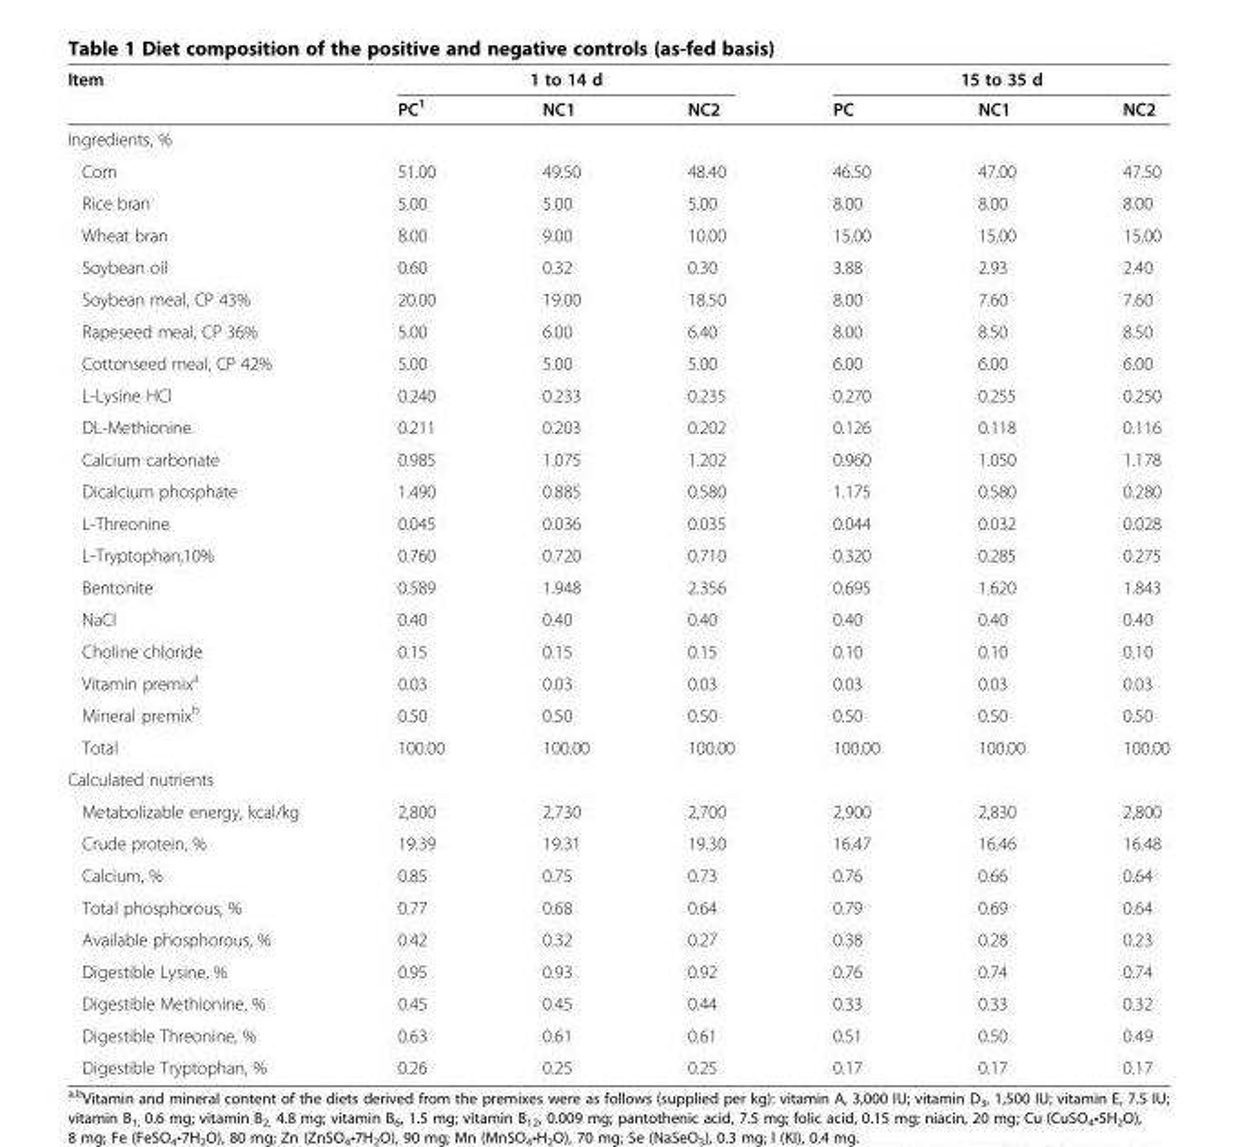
<table><thead><tr><td rowspan="2">Item</td><td colspan="3">1 to 14 d</td><td colspan="3">15 to 35 d</td></tr><tr><td>PC<sup>1</sup></td><td>NC1</td><td>NC2</td><td>PC</td><td>NC1</td><td>NC2</td></tr></thead><tbody><tr><td colspan="7">Ingredients, %</td></tr><tr><td>Corn</td><td>51.00</td><td>49.50</td><td>48.40</td><td>46.50</td><td>47.00</td><td>47.50</td></tr><tr><td>Rice bran</td><td>5.00</td><td>5.00</td><td>5.00</td><td>8.00</td><td>8.00</td><td>8.00</td></tr><tr><td>Wheat bran</td><td>8.00</td><td>9.00</td><td>10.00</td><td>15.00</td><td>15.00</td><td>15.00</td></tr><tr><td>Soybean oil</td><td>0.60</td><td>0.32</td><td>0.30</td><td>3.88</td><td>2.93</td><td>2.40</td></tr><tr><td>Soybean meal, CP 43%</td><td>20.00</td><td>19.00</td><td>18.50</td><td>8.00</td><td>7.60</td><td>7.60</td></tr><tr><td>Rapeseed meal, CP 36%</td><td>5.00</td><td>6.00</td><td>6.40</td><td>8.00</td><td>8.50</td><td>8.50</td></tr><tr><td>Cottonseed meal, CP 42%</td><td>5.00</td><td>5.00</td><td>5.00</td><td>6.00</td><td>6.00</td><td>6.00</td></tr><tr><td>L-Lysine HCl</td><td>0.240</td><td>0.233</td><td>0.235</td><td>0.270</td><td>0.255</td><td>0.250</td></tr><tr><td>DL-Methionine</td><td>0.211</td><td>0.203</td><td>0.202</td><td>0.126</td><td>0.118</td><td>0.116</td></tr><tr><td>Calcium carbonate</td><td>0.985</td><td>1.075</td><td>1.202</td><td>0.960</td><td>1.050</td><td>1.178</td></tr><tr><td>Dicalcium phosphate</td><td>1.490</td><td>0.885</td><td>0.580</td><td>1.175</td><td>0.580</td><td>0.280</td></tr><tr><td>L-Threonine</td><td>0.045</td><td>0.036</td><td>0.035</td><td>0.044</td><td>0.032</td><td>0.028</td></tr><tr><td>L-Tryptophan,10%</td><td>0.760</td><td>0.720</td><td>0.710</td><td>0.320</td><td>0.285</td><td>0.275</td></tr><tr><td>Bentonite</td><td>0.589</td><td>1.948</td><td>2.356</td><td>0.695</td><td>1.620</td><td>1.843</td></tr><tr><td>NaCl</td><td>0.40</td><td>0.40</td><td>0.40</td><td>0.40</td><td>0.40</td><td>0.40</td></tr><tr><td>Choline chloride</td><td>0.15</td><td>0.15</td><td>0.15</td><td>0.10</td><td>0.10</td><td>0.10</td></tr><tr><td>Vitamin premix<sup>a</sup></td><td>0.03</td><td>0.03</td><td>0.03</td><td>0.03</td><td>0.03</td><td>0.03</td></tr><tr><td>Mineral premix<sup>b</sup></td><td>0.50</td><td>0.50</td><td>0.50</td><td>0.50</td><td>0.50</td><td>0.50</td></tr><tr><td>Total</td><td>100.00</td><td>100.00</td><td>100.00</td><td>100.00</td><td>100.00</td><td>100.00</td></tr><tr><td colspan="7">Calculated nutrients</td></tr><tr><td>Metabolizable energy, kcal/kg</td><td>2,800</td><td>2,730</td><td>2,700</td><td>2,900</td><td>2,830</td><td>2,800</td></tr><tr><td>Crude protein, %</td><td>19.39</td><td>19.31</td><td>19.30</td><td>16.47</td><td>16.46</td><td>16.48</td></tr><tr><td>Calcium, %</td><td>0.85</td><td>0.75</td><td>0.73</td><td>0.76</td><td>0.66</td><td>0.64</td></tr><tr><td>Total phosphorous, %</td><td>0.77</td><td>0.68</td><td>0.64</td><td>0.79</td><td>0.69</td><td>0.64</td></tr><tr><td>Available phosphorous, %</td><td>0.42</td><td>0.32</td><td>0.27</td><td>0.38</td><td>0.28</td><td>0.23</td></tr><tr><td>Digestible Lysine, %</td><td>0.95</td><td>0.93</td><td>0.92</td><td>0.76</td><td>0.74</td><td>0.74</td></tr><tr><td>Digestible Methionine, %</td><td>0.45</td><td>0.45</td><td>0.44</td><td>0.33</td><td>0.33</td><td>0.32</td></tr><tr><td>Digestible Threonine, %</td><td>0.63</td><td>0.61</td><td>0.61</td><td>0.51</td><td>0.50</td><td>0.49</td></tr><tr><td>Digestible Tryptophan, %</td><td>0.26</td><td>0.25</td><td>0.25</td><td>0.17</td><td>0.17</td><td>0.17</td></tr></tbody></table>